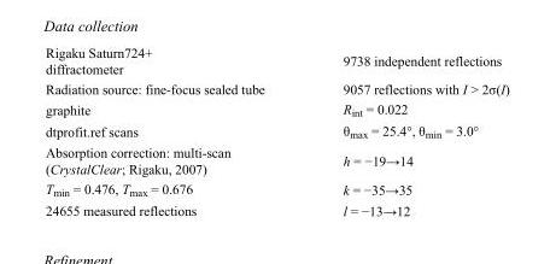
<table><tbody><tr><td>Rigaku Saturn724+ diffractometer</td><td>9738 independent reflections</td></tr><tr><td>Radiation source: fine-focus sealed tube</td><td>9057 reflections with I &gt; 2σ(I)</td></tr><tr><td>graphite</td><td>R<sub>int</sub> = 0.022</td></tr><tr><td>dtprofit.ref scans</td><td>θ<sub>max</sub> = 25.4°, θ<sub>min</sub> = 3.0°</td></tr><tr><td>Absorption correction: multi-scan (CrystalClear; Rigaku, 2007)</td><td>h = −19→14</td></tr><tr><td>T<sub>min</sub> = 0.476, T<sub>max</sub> = 0.676</td><td>k = −35→35</td></tr><tr><td>24655 measured reflections</td><td>l = −13→12</td></tr></tbody></table>